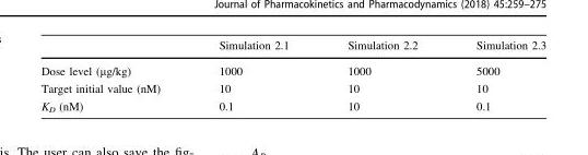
<table><thead><tr><td></td><td>Simulation 2.1</td><td>Simulation 2.2</td><td>Simulation 2.3</td></tr></thead><tbody><tr><td>Dose level (μg/kg)</td><td>1000</td><td>1000</td><td>5000</td></tr><tr><td>Target initial value (nM)</td><td>10</td><td>10</td><td>10</td></tr><tr><td>K<sub>D</sub> (nM)</td><td>0.1</td><td>10</td><td>0.1</td></tr></tbody></table>